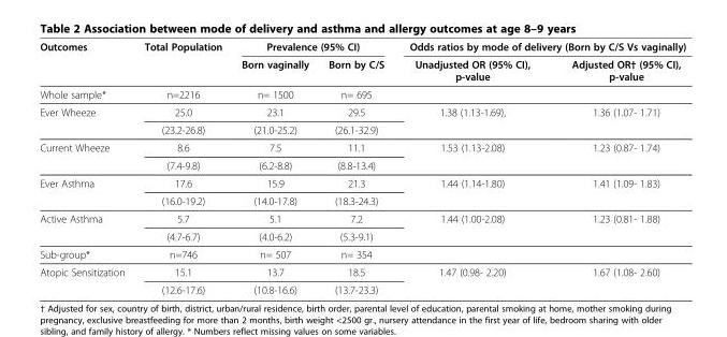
<table><thead><tr><td rowspan="2">Outcomes</td><td rowspan="2">Total Population</td><td colspan="2">Prevalence (95% CI)</td><td colspan="2">Odds ratios by mode of delivery (Born by C/S Vs vaginally)</td></tr><tr><td>Born vaginally</td><td>Born by C/S</td><td>Unadjusted OR (95% CI), p-value</td><td>Adjusted OR† (95% CI), p-value</td></tr></thead><tbody><tr><td>Whole sample*</td><td>n=2216</td><td>n= 1500</td><td>n= 695</td><td></td><td></td></tr><tr><td rowspan="2">Ever Wheeze</td><td>25.0</td><td>23.1</td><td>29.5</td><td rowspan="2">1.38 (1.13-1.69),</td><td rowspan="2">1.36 (1.07- 1.71)</td></tr><tr><td>(23.2-26.8)</td><td>(21.0-25.2)</td><td>(26.1-32.9)</td></tr><tr><td rowspan="2">Current Wheeze</td><td>8.6</td><td>7.5</td><td>11.1</td><td rowspan="2">1.53 (1.13-2.08)</td><td rowspan="2">1.23 (0.87- 1.74)</td></tr><tr><td>(7.4-9.8)</td><td>(6.2-8.8)</td><td>(8.8-13.4)</td></tr><tr><td rowspan="2">Ever Asthma</td><td>17.6</td><td>15.9</td><td>21.3</td><td rowspan="2">1.44 (1.14-1.80)</td><td rowspan="2">1.41 (1.09- 1.83)</td></tr><tr><td>(16.0-19.2)</td><td>(14.0-17.8)</td><td>(18.3-24.3)</td></tr><tr><td rowspan="2">Active Asthma</td><td>5.7</td><td>5.1</td><td>7.2</td><td rowspan="2">1.44 (1.00-2.08)</td><td rowspan="2">1.23 (0.81- 1.88)</td></tr><tr><td>(4.7-6.7)</td><td>(4.0-6.2)</td><td>(5.3-9.1)</td></tr><tr><td>Sub-group*</td><td>n=746</td><td>n= 507</td><td>n= 354</td><td></td><td></td></tr><tr><td rowspan="2">Atopic Sensitization</td><td>15.1</td><td>13.7</td><td>18.5</td><td rowspan="2">1.47 (0.98- 2.20)</td><td rowspan="2">1.67 (1.08- 2.60)</td></tr><tr><td>(12.6-17.6)</td><td>(10.8-16.6)</td><td>(13.7-23.3)</td></tr></tbody></table>